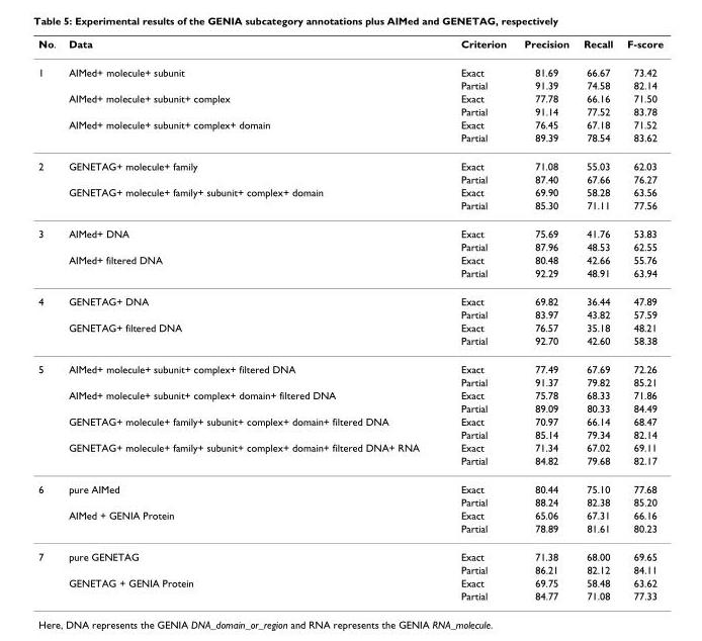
<table><thead><tr><td>No.</td><td>Data</td><td>Criterion</td><td>Precision</td><td>Recall</td><td>F-score</td></tr></thead><tbody><tr><td rowspan="6">1</td><td>AIMed+ molecule+ subunit</td><td>Exact</td><td>81.69</td><td>66.67</td><td>73.42</td></tr><tr><td></td><td>Partial</td><td>91.39</td><td>74.58</td><td>82.14</td></tr><tr><td>AIMed+ molecule+ subunit+ complex</td><td>Exact</td><td>77.78</td><td>66.16</td><td>71.50</td></tr><tr><td></td><td>Partial</td><td>91.14</td><td>77.52</td><td>83.78</td></tr><tr><td>AIMed+ molecule+ subunit+ complex+ domain</td><td>Exact</td><td>76.45</td><td>67.18</td><td>71.52</td></tr><tr><td></td><td>Partial</td><td>89.39</td><td>78.54</td><td>83.62</td></tr><tr><td rowspan="4">2</td><td>GENETAG+ molecule+ family</td><td>Exact</td><td>71.08</td><td>55.03</td><td>62.03</td></tr><tr><td></td><td>Partial</td><td>87.40</td><td>67.66</td><td>76.27</td></tr><tr><td>GENETAG+ molecule+ family+ subunit+ complex+ domain</td><td>Exact</td><td>69.90</td><td>58.28</td><td>63.56</td></tr><tr><td></td><td>Partial</td><td>85.30</td><td>71.11</td><td>77.56</td></tr><tr><td rowspan="4">3</td><td>AIMed+ DNA</td><td>Exact</td><td>75.69</td><td>41.76</td><td>53.83</td></tr><tr><td></td><td>Partial</td><td>87.96</td><td>48.53</td><td>62.55</td></tr><tr><td>AIMed+ filtered DNA</td><td>Exact</td><td>80.48</td><td>42.66</td><td>55.76</td></tr><tr><td></td><td>Partial</td><td>92.29</td><td>48.91</td><td>63.94</td></tr><tr><td rowspan="4">4</td><td>GENETAG+ DNA</td><td>Exact</td><td>69.82</td><td>36.44</td><td>47.89</td></tr><tr><td></td><td>Partial</td><td>83.97</td><td>43.82</td><td>57.59</td></tr><tr><td>GENETAG+ filtered DNA</td><td>Exact</td><td>76.57</td><td>35.18</td><td>48.21</td></tr><tr><td></td><td>Partial</td><td>92.70</td><td>42.60</td><td>58.38</td></tr><tr><td rowspan="8">5</td><td>AIMed+ molecule+ subunit+ complex+ filtered DNA</td><td>Exact</td><td>77.49</td><td>67.69</td><td>72.26</td></tr><tr><td></td><td>Partial</td><td>91.37</td><td>79.82</td><td>85.21</td></tr><tr><td>AIMed+ molecule+ subunit+ complex+ domain+ filtered DNA</td><td>Exact</td><td>75.78</td><td>68.33</td><td>71.86</td></tr><tr><td></td><td>Partial</td><td>89.09</td><td>80.33</td><td>84.49</td></tr><tr><td>GENETAG+ molecule+ family+ subunit+ complex+ domain+ filtered DNA</td><td>Exact</td><td>70.97</td><td>66.14</td><td>68.47</td></tr><tr><td></td><td>Partial</td><td>85.14</td><td>79.34</td><td>82.14</td></tr><tr><td>GENETAG+ molecule+ family+ subunit+ complex+ domain+ filtered DNA+ RNA</td><td>Exact</td><td>71.34</td><td>67.02</td><td>69.11</td></tr><tr><td></td><td>Partial</td><td>84.82</td><td>79.68</td><td>82.17</td></tr><tr><td rowspan="4">6</td><td>pure AIMed</td><td>Exact</td><td>80.44</td><td>75.10</td><td>77.68</td></tr><tr><td></td><td>Partial</td><td>88.24</td><td>82.38</td><td>85.20</td></tr><tr><td>AIMed + GENIA Protein</td><td>Exact</td><td>65.06</td><td>67.31</td><td>66.16</td></tr><tr><td></td><td>Partial</td><td>78.89</td><td>81.61</td><td>80.23</td></tr><tr><td rowspan="4">7</td><td>pure GENETAG</td><td>Exact</td><td>71.38</td><td>68.00</td><td>69.65</td></tr><tr><td></td><td>Partial</td><td>86.21</td><td>82.12</td><td>84.11</td></tr><tr><td>GENETAG + GENIA Protein</td><td>Exact</td><td>69.75</td><td>58.48</td><td>63.62</td></tr><tr><td></td><td>Partial</td><td>84.77</td><td>71.08</td><td>77.33</td></tr></tbody></table>